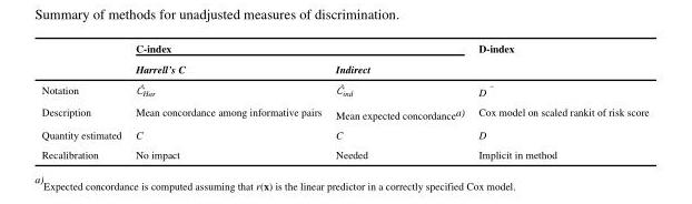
<table><thead><tr><td rowspan="2"></td><td colspan="2">C-index</td><td rowspan="2">D-index</td></tr><tr><td>Harrell’s C</td><td>Indirect</td></tr></thead><tbody><tr><td>Notation</td><td>Ĉ<sub>Har</sub></td><td>Ĉ<sub>ind</sub></td><td>D̂</td></tr><tr><td>Description</td><td>Mean concordance among informative pairs</td><td>Mean expected concordancea)</td><td>Cox model on scaled rankit of risk score</td></tr><tr><td>Quantity estimated</td><td>C</td><td>C</td><td>D</td></tr><tr><td>Recalibration</td><td>No impact</td><td>Needed</td><td>Implicit in method</td></tr></tbody></table>